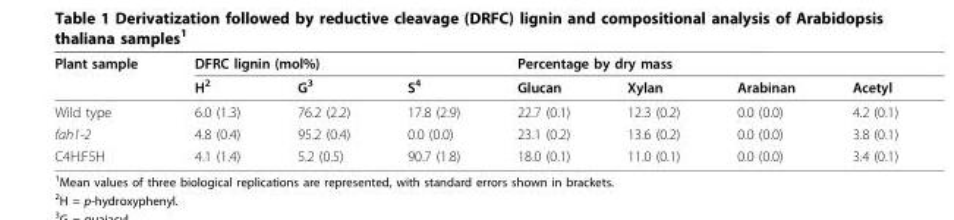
<table><thead><tr><td rowspan="2">Plant sample</td><td colspan="3">DFRC lignin (mol%)</td><td colspan="4">Percentage by dry mass</td></tr><tr><td>H<sup>2</sup></td><td>G<sup>3</sup></td><td>S<sup>4</sup></td><td>Glucan</td><td>Xylan</td><td>Arabinan</td><td>Acetyl</td></tr></thead><tbody><tr><td>Wild type</td><td>6.0 (1.3)</td><td>76.2 (2.2)</td><td>17.8 (2.9)</td><td>22.7 (0.1)</td><td>12.3 (0.2)</td><td>0.0 (0.0)</td><td>4.2 (0.1)</td></tr><tr><td>fah1-2</td><td>4.8 (0.4)</td><td>95.2 (0.4)</td><td>0.0 (0.0)</td><td>23.1 (0.2)</td><td>13.6 (0.2)</td><td>0.0 (0.0)</td><td>3.8 (0.1)</td></tr><tr><td>C4H:F5H</td><td>4.1 (1.4)</td><td>5.2 (0.5)</td><td>90.7 (1.8)</td><td>18.0 (0.1)</td><td>11.0 (0.1)</td><td>0.0 (0.0)</td><td>3.4 (0.1)</td></tr></tbody></table>